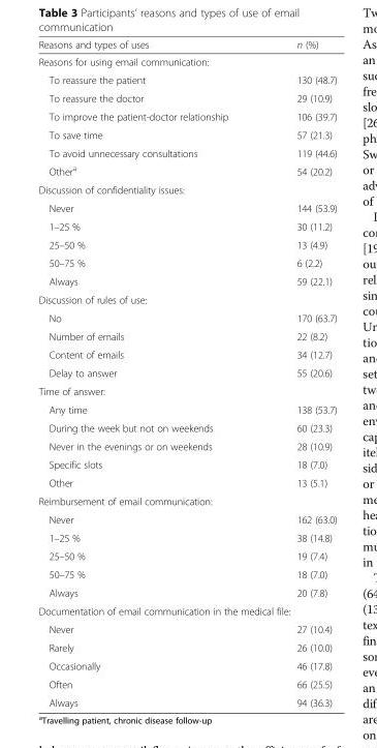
<table><thead><tr><td>Reasons and types of uses</td><td>n (%)</td></tr></thead><tbody><tr><td colspan="2">Reasons for using email communication:</td></tr><tr><td>To reassure the patient</td><td>130 (48.7)</td></tr><tr><td>To reassure the doctor</td><td>29 (10.9)</td></tr><tr><td>To improve the patient-doctor relationship</td><td>106 (39.7)</td></tr><tr><td>To save time</td><td>57 (21.3)</td></tr><tr><td>To avoid unnecessary consultations</td><td>119 (44.6)</td></tr><tr><td>Other<sup>a</sup></td><td>54 (20.2)</td></tr><tr><td colspan="2">Discussion of confidentiality issues:</td></tr><tr><td>Never</td><td>144 (53.9)</td></tr><tr><td>1–25 %</td><td>30 (11.2)</td></tr><tr><td>25–50 %</td><td>13 (4.9)</td></tr><tr><td>50–75 %</td><td>6 (2.2)</td></tr><tr><td>Always</td><td>59 (22.1)</td></tr><tr><td colspan="2">Discussion of rules of use:</td></tr><tr><td>No</td><td>170 (63.7)</td></tr><tr><td>Number of emails</td><td>22 (8.2)</td></tr><tr><td>Content of emails</td><td>34 (12.7)</td></tr><tr><td>Delay to answer</td><td>55 (20.6)</td></tr><tr><td colspan="2">Time of answer:</td></tr><tr><td>Any time</td><td>138 (53.7)</td></tr><tr><td>During the week but not on weekends</td><td>60 (23.3)</td></tr><tr><td>Never in the evenings or on weekends</td><td>28 (10.9)</td></tr><tr><td>Specific slots</td><td>18 (7.0)</td></tr><tr><td>Other</td><td>13 (5.1)</td></tr><tr><td colspan="2">Reimbursement of email communication:</td></tr><tr><td>Never</td><td>162 (63.0)</td></tr><tr><td>1–25 %</td><td>38 (14.8)</td></tr><tr><td>25–50 %</td><td>19 (7.4)</td></tr><tr><td>50–75 %</td><td>18 (7.0)</td></tr><tr><td>Always</td><td>20 (7.8)</td></tr><tr><td colspan="2">Documentation of email communication in the medical file:</td></tr><tr><td>Never</td><td>27 (10.4)</td></tr><tr><td>Rarely</td><td>26 (10.0)</td></tr><tr><td>Occasionally</td><td>46 (17.8)</td></tr><tr><td>Often</td><td>66 (25.5)</td></tr><tr><td>Always</td><td>94 (36.3)</td></tr></tbody></table>